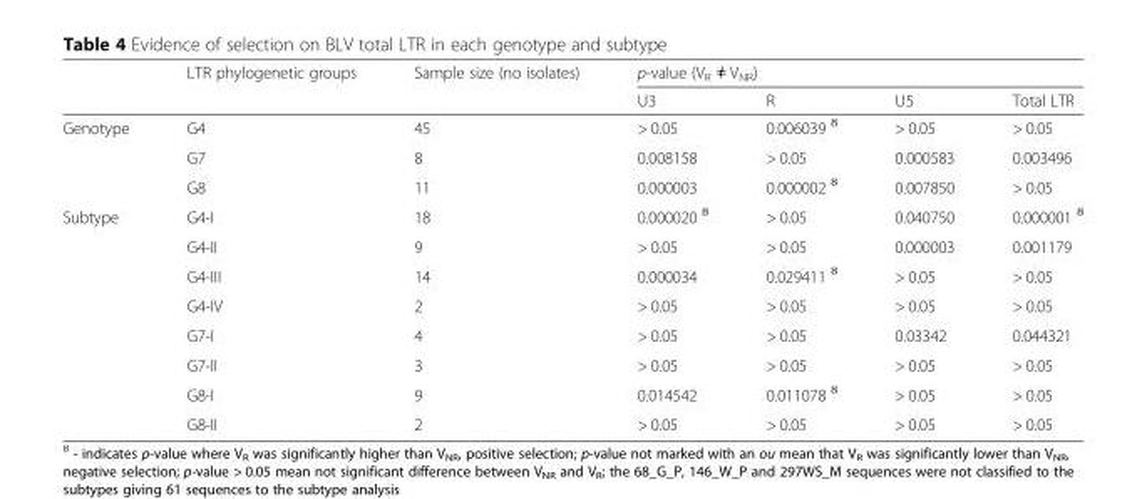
<table><thead><tr><td rowspan="2"></td><td rowspan="2">LTR phylogenetic groups</td><td rowspan="2">Sample size (no isolates)</td><td colspan="4">p-value (V<sub>R</sub> ≠ V<sub>NR</sub>)</td></tr><tr><td>U3</td><td>R</td><td>U5</td><td>Total LTR</td></tr></thead><tbody><tr><td rowspan="3">Genotype</td><td>G4</td><td>45</td><td>&gt; 0.05</td><td>0.006039 <sup>ȣ</sup></td><td>&gt; 0.05</td><td>&gt; 0.05</td></tr><tr><td>G7</td><td>8</td><td>0.008158</td><td>&gt; 0.05</td><td>0.000583</td><td>0.003496</td></tr><tr><td>G8</td><td>11</td><td>0.000003</td><td>0.000002 <sup>ȣ</sup></td><td>0.007850</td><td>&gt; 0.05</td></tr><tr><td rowspan="8">Subtype</td><td>G4-I</td><td>18</td><td>0.000020 <sup>ȣ</sup></td><td>&gt; 0.05</td><td>0.040750</td><td>0.000001 <sup>ȣ</sup></td></tr><tr><td>G4-II</td><td>9</td><td>&gt; 0.05</td><td>&gt; 0.05</td><td>0.000003</td><td>0.001179</td></tr><tr><td>G4-III</td><td>14</td><td>0.000034</td><td>0.029411 <sup>ȣ</sup></td><td>&gt; 0.05</td><td>&gt; 0.05</td></tr><tr><td>G4-IV</td><td>2</td><td>&gt; 0.05</td><td>&gt; 0.05</td><td>&gt; 0.05</td><td>&gt; 0.05</td></tr><tr><td>G7-I</td><td>4</td><td>&gt; 0.05</td><td>&gt; 0.05</td><td>0.03342</td><td>0.044321</td></tr><tr><td>G7-II</td><td>3</td><td>&gt; 0.05</td><td>&gt; 0.05</td><td>&gt; 0.05</td><td>&gt; 0.05</td></tr><tr><td>G8-I</td><td>9</td><td>0.014542</td><td>0.011078 <sup>ȣ</sup></td><td>&gt; 0.05</td><td>&gt; 0.05</td></tr><tr><td>G8-II</td><td>2</td><td>&gt; 0.05</td><td>&gt; 0.05</td><td>&gt; 0.05</td><td>&gt; 0.05</td></tr></tbody></table>